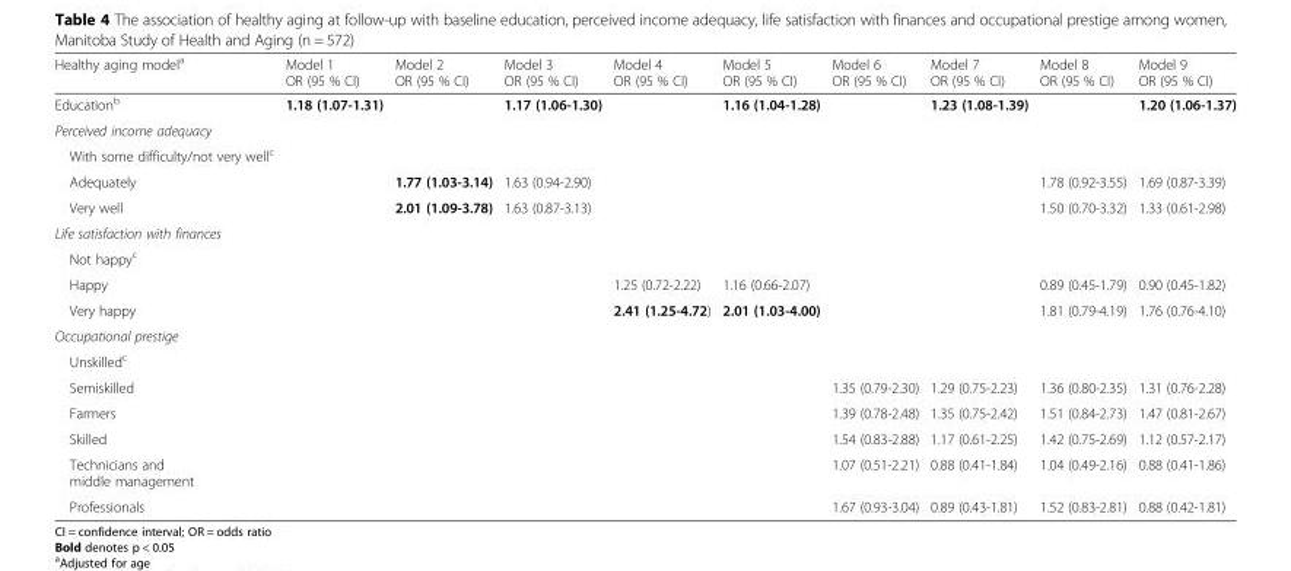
<table><thead><tr><td>Healthy aging model<sup>a</sup></td><td>Model 1 OR (95 % CI)</td><td>Model 2 OR (95 % CI)</td><td>Model 3 OR (95 % CI)</td><td>Model 4 OR (95 % CI)</td><td>Model 5 OR (95 % CI)</td><td>Model 6 OR (95 % CI)</td><td>Model 7 OR (95 % CI)</td><td>Model 8 OR (95 % CI)</td><td>Model 9 OR (95 % CI)</td></tr></thead><tbody><tr><td>Education<sup>b</sup></td><td>1.18 (1.07-1.31)</td><td></td><td>1.17 (1.06-1.30)</td><td></td><td>1.16 (1.04-1.28)</td><td></td><td>1.23 (1.08-1.39)</td><td></td><td>1.20 (1.06-1.37)</td></tr><tr><td colspan="10">Perceived income adequacy</td></tr><tr><td colspan="10">With some difficulty/not very well<sup>c</sup></td></tr><tr><td>Adequately</td><td></td><td>1.77 (1.03-3.14)</td><td>1.63 (0.94-2.90)</td><td></td><td></td><td></td><td></td><td>1.78 (0.92-3.55)</td><td>1.69 (0.87-3.39)</td></tr><tr><td>Very well</td><td></td><td>2.01 (1.09-3.78)</td><td>1.63 (0.87-3.13)</td><td></td><td></td><td></td><td></td><td>1.50 (0.70-3.32)</td><td>1.33 (0.61-2.98)</td></tr><tr><td colspan="10">Life satisfaction with finances</td></tr><tr><td colspan="10">Not happy<sup>c</sup></td></tr><tr><td>Happy</td><td></td><td></td><td></td><td>1.25 (0.72-2.22)</td><td>1.16 (0.66-2.07)</td><td></td><td></td><td>0.89 (0.45-1.79)</td><td>0.90 (0.45-1.82)</td></tr><tr><td>Very happy</td><td></td><td></td><td></td><td>2.41 (1.25-4.72)</td><td>2.01 (1.03-4.00)</td><td></td><td></td><td>1.81 (0.79-4.19)</td><td>1.76 (0.76-4.10)</td></tr><tr><td colspan="10">Occupational prestige</td></tr><tr><td colspan="10">Unskilled<sup>c</sup></td></tr><tr><td>Semiskilled</td><td></td><td></td><td></td><td></td><td></td><td>1.35 (0.79-2.30)</td><td>1.29 (0.75-2.23)</td><td>1.36 (0.80-2.35)</td><td>1.31 (0.76-2.28)</td></tr><tr><td>Farmers</td><td></td><td></td><td></td><td></td><td></td><td>1.39 (0.78-2.48)</td><td>1.35 (0.75-2.42)</td><td>1.51 (0.84-2.73)</td><td>1.47 (0.81-2.67)</td></tr><tr><td>Skilled</td><td></td><td></td><td></td><td></td><td></td><td>1.54 (0.83-2.88)</td><td>1.17 (0.61-2.25)</td><td>1.42 (0.75-2.69)</td><td>1.12 (0.57-2.17)</td></tr><tr><td>Technicians and middle management</td><td></td><td></td><td></td><td></td><td></td><td>1.07 (0.51-2.21)</td><td>0.88 (0.41-1.84)</td><td>1.04 (0.49-2.16)</td><td>0.88 (0.41-1.86)</td></tr><tr><td>Professionals</td><td></td><td></td><td></td><td></td><td></td><td>1.67 (0.93-3.04)</td><td>0.89 (0.43-1.81)</td><td>1.52 (0.83-2.81)</td><td>0.88 (0.42-1.81)</td></tr></tbody></table>